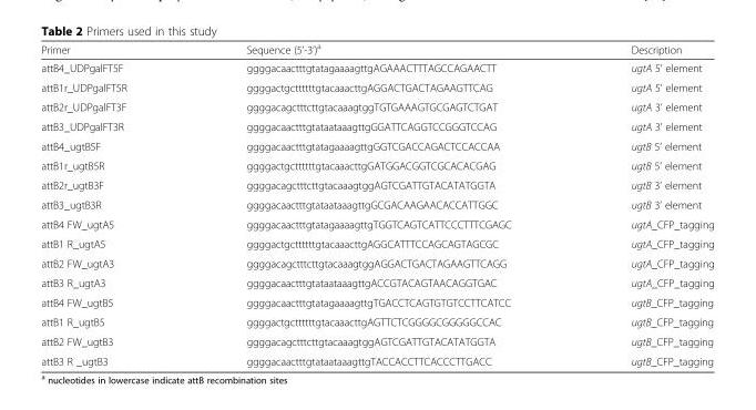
<table><thead><tr><td>Primer</td><td>Sequence (5’-3’)<sup>a</sup></td><td>Description</td></tr></thead><tbody><tr><td>attB4_UDPgalFT5F</td><td>ggggacaactttgtatagaaaagttgAGAAACTTTAGCCAGAACTT</td><td>ugtA 5’ element</td></tr><tr><td>attB1r_UDPgalFT5R</td><td>ggggactgcttttttgtacaaacttgAGGACTGACTAGAAGTTCAG</td><td>ugtA 5’ element</td></tr><tr><td>attB2r_UDPgalFT3F</td><td>ggggacagctttcttgtacaaagtggTGTGAAAGTGCGAGTCTGAT</td><td>ugtA 3’ element</td></tr><tr><td>attB3_UDPgalFT3R</td><td>ggggacaactttgtataataaagttgGGATTCAGGTCCGGGTCCAG</td><td>ugtA 3’ element</td></tr><tr><td>attB4_ugtB5F</td><td>ggggacaactttgtatagaaaagttgGGTCGACCAGACTCCACCAA</td><td>ugtB 5’ element</td></tr><tr><td>attB1r_ugtB5R</td><td>ggggactgcttttttgtacaaacttgGATGGACGGTCGCACACGAG</td><td>ugtB 5’ element</td></tr><tr><td>attB2r_ugtB3F</td><td>ggggacagctttcttgtacaaagtggAGTCGATTGTACATATGGTA</td><td>ugtB 3’ element</td></tr><tr><td>attB3_ugtB3R</td><td>ggggacaactttgtataataaagttgGCGACAAGAACACCATTGGC</td><td>ugtB 3’ element</td></tr><tr><td>attB4 FW_ugtA5</td><td>ggggacaactttgtatagaaaagttgTGGTCAGTCATTCCCTTTCGAGC</td><td>ugtA_CFP_tagging</td></tr><tr><td>attB1 R_ugtA5</td><td>ggggactgcttttttgtacaaacttgAGGCATTTCCAGCAGTAGCGC</td><td>ugtA_CFP_tagging</td></tr><tr><td>attB2 FW_ugtA3</td><td>ggggacagctttcttgtacaaagtggAGGACTGACTAGAAGTTCAGG</td><td>ugtA_CFP_tagging</td></tr><tr><td>attB3 R_ugtA3</td><td>ggggacaactttgtataataaagttgACCGTACAGTAACAGGTGAC</td><td>ugtA_CFP_tagging</td></tr><tr><td>attB4 FW_ugtB5</td><td>ggggacaactttgtatagaaaagttgTGACCTCAGTGTGTCCTTCATCC</td><td>ugtB_CFP_tagging</td></tr><tr><td>attB1 R_ugtB5</td><td>ggggactgcttttttgtacaaacttgAGTTCTCGGGGCGGGGGCCAC</td><td>ugtB_CFP_tagging</td></tr><tr><td>attB2 FW_ugtB3</td><td>ggggacagctttcttgtacaaagtggAGTCGATTGTACATATGGTA</td><td>ugtB_CFP_tagging</td></tr><tr><td>attB3 R _ugtB3</td><td>ggggacaactttgtataataaagttgTACCACCTTCACCCTTGACC</td><td>ugtB_CFP_tagging</td></tr></tbody></table>